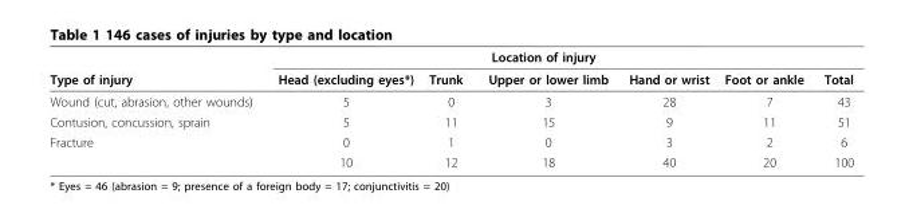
<table><thead><tr><td rowspan="2">Type of injury</td><td colspan="5">Location of injury</td><td rowspan="2">Total</td></tr><tr><td>Head (excluding eyes*)</td><td>Trunk</td><td>Upper or lower limb</td><td>Hand or wrist</td><td>Foot or ankle</td></tr></thead><tbody><tr><td>Wound (cut, abrasion, other wounds)</td><td>5</td><td>0</td><td>3</td><td>28</td><td>7</td><td>43</td></tr><tr><td>Contusion, concussion, sprain</td><td>5</td><td>11</td><td>15</td><td>9</td><td>11</td><td>51</td></tr><tr><td rowspan="2">Fracture</td><td>0</td><td>1</td><td>0</td><td>3</td><td>2</td><td>6</td></tr><tr><td>10</td><td>12</td><td>18</td><td>40</td><td>20</td><td>100</td></tr></tbody></table>